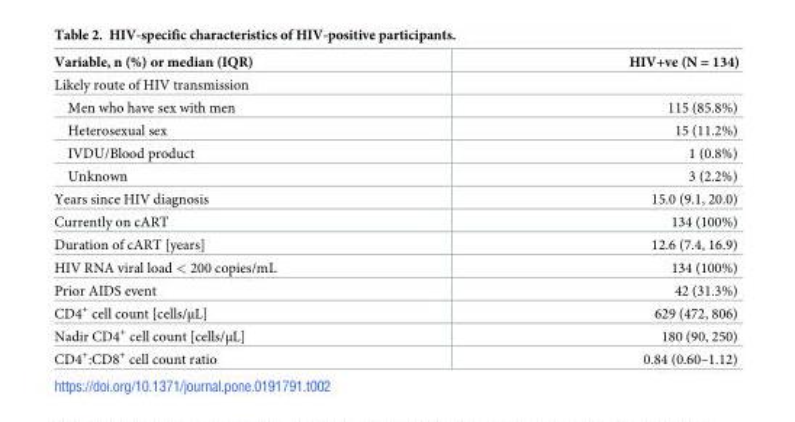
<table><thead><tr><td>Variable, n (%) or median (IQR)</td><td>HIV+ve (N = 134)</td></tr></thead><tbody><tr><td colspan="2">Likely route of HIV transmission</td></tr><tr><td>Men who have sex with men</td><td>115 (85.8%)</td></tr><tr><td>Heterosexual sex</td><td>15 (11.2%)</td></tr><tr><td>IVDU/Blood product</td><td>1 (0.8%)</td></tr><tr><td>Unknown</td><td>3 (2.2%)</td></tr><tr><td>Years since HIV diagnosis</td><td>15.0 (9.1, 20.0)</td></tr><tr><td>Currently on cART</td><td>134 (100%)</td></tr><tr><td>Duration of cART [years]</td><td>12.6 (7.4, 16.9)</td></tr><tr><td>HIV RNA viral load &lt; 200 copies/mL</td><td>134 (100%)</td></tr><tr><td>Prior AIDS event</td><td>42 (31.3%)</td></tr><tr><td>CD4<sup>+</sup> cell count [cells/μL]</td><td>629 (472, 806)</td></tr><tr><td>Nadir CD4<sup>+</sup> cell count [cells/μL]</td><td>180 (90, 250)</td></tr><tr><td>CD4<sup>+</sup>:CD8<sup>+</sup> cell count ratio</td><td>0.84 (0.60–1.12)</td></tr></tbody></table>